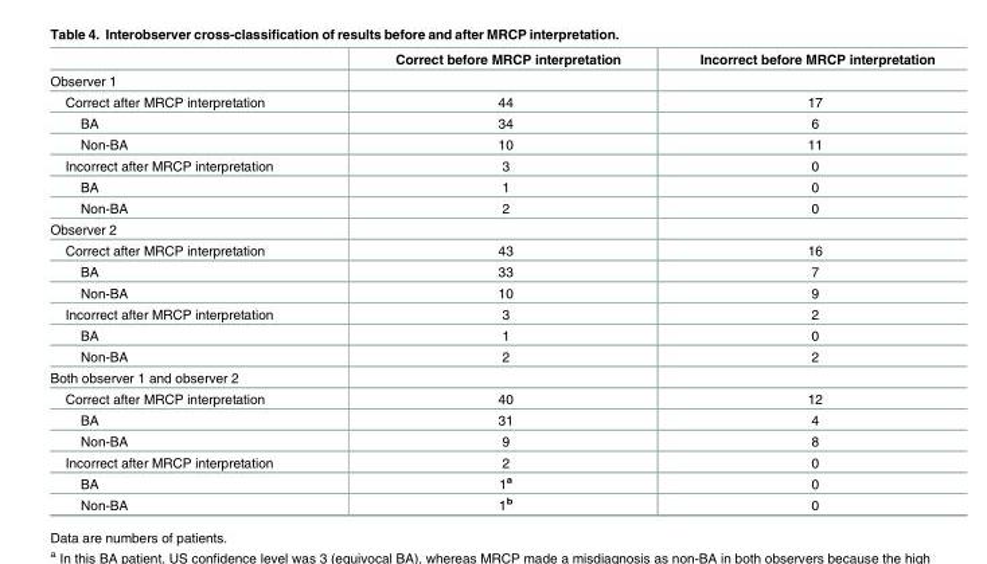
<table><thead><tr><td></td><td>Correct before MRCP interpretation</td><td>Incorrect before MRCP interpretation</td></tr></thead><tbody><tr><td colspan="3">Observer 1</td></tr><tr><td>Correct after MRCP interpretation</td><td>44</td><td>17</td></tr><tr><td>BA</td><td>34</td><td>6</td></tr><tr><td>Non-BA</td><td>10</td><td>11</td></tr><tr><td>Incorrect after MRCP interpretation</td><td>3</td><td>0</td></tr><tr><td>BA</td><td>1</td><td>0</td></tr><tr><td>Non-BA</td><td>2</td><td>0</td></tr><tr><td colspan="3">Observer 2</td></tr><tr><td>Correct after MRCP interpretation</td><td>43</td><td>16</td></tr><tr><td>BA</td><td>33</td><td>7</td></tr><tr><td>Non-BA</td><td>10</td><td>9</td></tr><tr><td>Incorrect after MRCP interpretation</td><td>3</td><td>2</td></tr><tr><td>BA</td><td>1</td><td>0</td></tr><tr><td>Non-BA</td><td>2</td><td>2</td></tr><tr><td colspan="3">Both observer 1 and observer 2</td></tr><tr><td>Correct after MRCP interpretation</td><td>40</td><td>12</td></tr><tr><td>BA</td><td>31</td><td>4</td></tr><tr><td>Non-BA</td><td>9</td><td>8</td></tr><tr><td>Incorrect after MRCP interpretation</td><td>2</td><td>0</td></tr><tr><td>BA</td><td>1<sup>a</sup></td><td>0</td></tr><tr><td>Non-BA</td><td>1<sup>b</sup></td><td>0</td></tr></tbody></table>